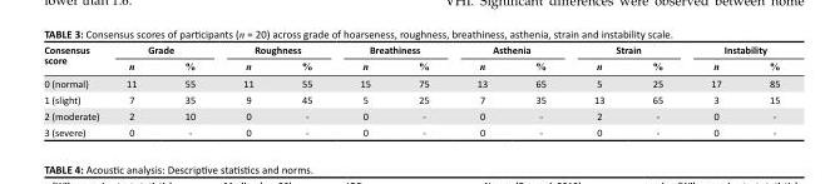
<table><thead><tr><td rowspan="2">Consensus score</td><td colspan="2">Grade</td><td colspan="2">Roughness</td><td colspan="2">Breathiness</td><td colspan="2">Asthenia</td><td colspan="2">Strain</td><td colspan="2">Instability</td></tr><tr><td>n</td><td>%</td><td>n</td><td>%</td><td>n</td><td>%</td><td>n</td><td>%</td><td>n</td><td>%</td><td>n</td><td>%</td></tr></thead><tbody><tr><td>0 (normal)</td><td>11</td><td>55</td><td>11</td><td>55</td><td>15</td><td>75</td><td>13</td><td>65</td><td>5</td><td>25</td><td>17</td><td>85</td></tr><tr><td>1 (slight)</td><td>7</td><td>35</td><td>9</td><td>45</td><td>5</td><td>25</td><td>7</td><td>35</td><td>13</td><td>65</td><td>3</td><td>15</td></tr><tr><td>2 (moderate)</td><td>2</td><td>10</td><td>0</td><td>-</td><td>0</td><td>-</td><td>0</td><td>-</td><td>2</td><td>-</td><td>0</td><td>-</td></tr><tr><td>3 (severe)</td><td>0</td><td>-</td><td>0</td><td>-</td><td>0</td><td>-</td><td>0</td><td>-</td><td>0</td><td>-</td><td>0</td><td>-</td></tr></tbody></table>